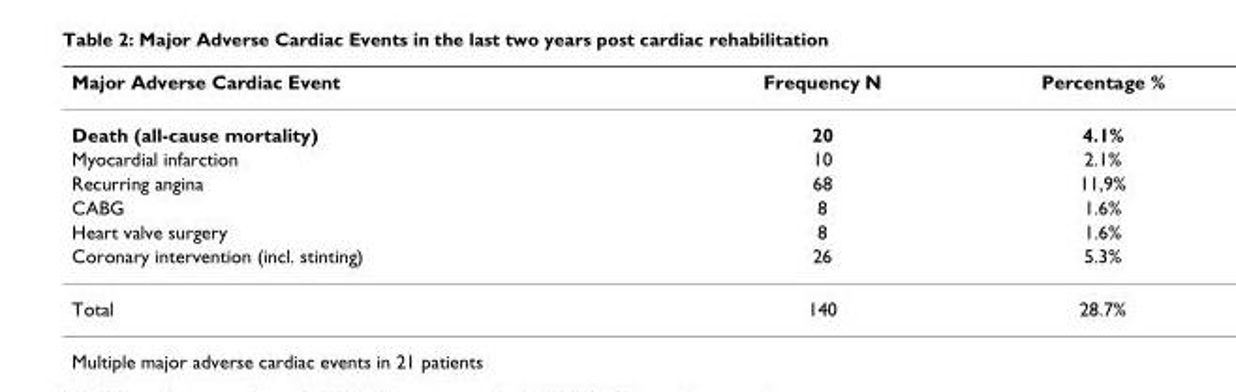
<table><thead><tr><td>Major Adverse Cardiac Event</td><td>Frequency N</td><td>Percentage %</td></tr></thead><tbody><tr><td>Death (all-cause mortality)</td><td>20</td><td>4.1%</td></tr><tr><td>Myocardial infarction</td><td>10</td><td>2.1%</td></tr><tr><td>Recurring angina</td><td>68</td><td>11,9%</td></tr><tr><td>CABG</td><td>8</td><td>1.6%</td></tr><tr><td>Heart valve surgery</td><td>8</td><td>1.6%</td></tr><tr><td>Coronary intervention (incl. stinting)</td><td>26</td><td>5.3%</td></tr><tr><td>Total</td><td>140</td><td>28.7%</td></tr></tbody></table>